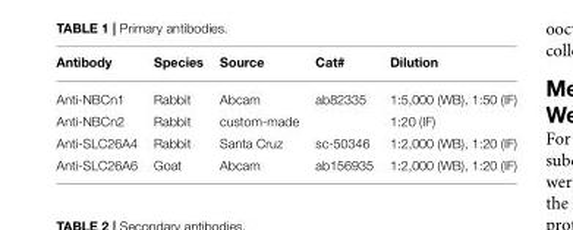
<table><thead><tr><td>Antibody</td><td>Species</td><td>Source</td><td>Cat#</td><td>Dilution</td></tr></thead><tbody><tr><td>Anti-NBCn1</td><td>Rabbit</td><td>Abcam</td><td>ab82335</td><td>1:5,000 (WB), 1:50 (IF)</td></tr><tr><td>Anti-NBCn2</td><td>Rabbit</td><td>custom-made</td><td></td><td>1:20 (IF)</td></tr><tr><td>Anti-SLC26A4</td><td>Rabbit</td><td>Santa Cruz</td><td>sc-50346</td><td>1:2,000 (WB), 1:20 (IF)</td></tr><tr><td>Anti-SLC26A6</td><td>Goat</td><td>Abcam</td><td>ab156935</td><td>1:2,000 (WB), 1:20 (IF)</td></tr></tbody></table>